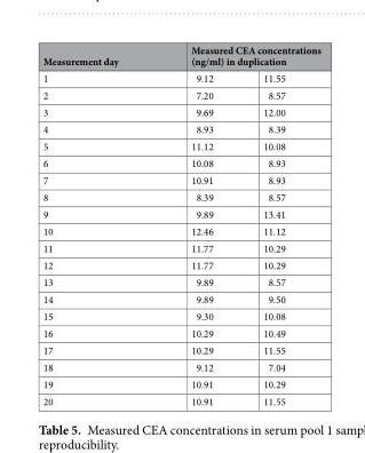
<table><thead><tr><td rowspan="2">Measurement day 1</td><td colspan="2">Measured CEA concentrations (ng/ml) in duplication</td></tr><tr><td>9.12</td><td>11.55</td></tr></thead><tbody><tr><td>2</td><td>7.20</td><td>8.57</td></tr><tr><td>3</td><td>9.69</td><td>12.00</td></tr><tr><td>4</td><td>8.93</td><td>8.39</td></tr><tr><td>5</td><td>11.12</td><td>10.08</td></tr><tr><td>6</td><td>10.08</td><td>8.93</td></tr><tr><td>7</td><td>10.91</td><td>8.93</td></tr><tr><td>8</td><td>8.39</td><td>8.57</td></tr><tr><td>9</td><td>9.89</td><td>13.41</td></tr><tr><td>10</td><td>12.46</td><td>11.12</td></tr><tr><td>11</td><td>11.77</td><td>10.29</td></tr><tr><td>12</td><td>11.77</td><td>10.29</td></tr><tr><td>13</td><td>9.89</td><td>8.57</td></tr><tr><td>14</td><td>9.89</td><td>9.50</td></tr><tr><td>15</td><td>9.30</td><td>10.08</td></tr><tr><td>16</td><td>10.29</td><td>10.49</td></tr><tr><td>17</td><td>10.29</td><td>11.55</td></tr><tr><td>18</td><td>9.12</td><td>7.04</td></tr><tr><td>19</td><td>10.91</td><td>10.29</td></tr><tr><td>20</td><td>10.91</td><td>11.55</td></tr></tbody></table>